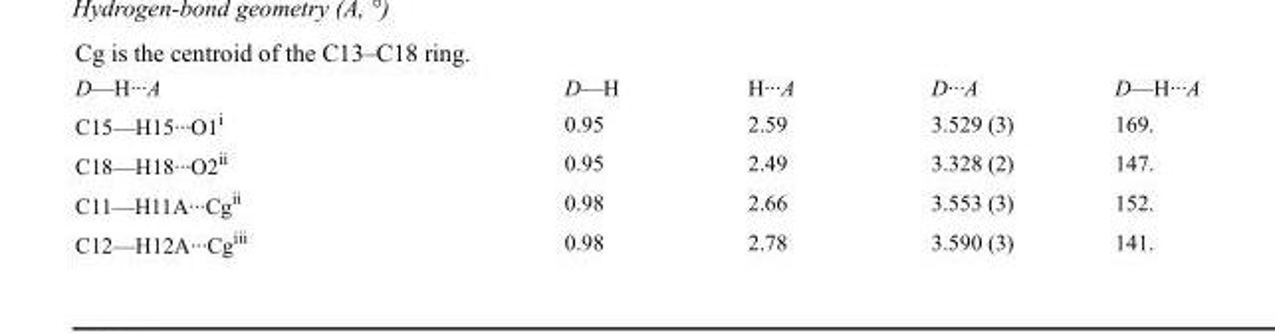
<table><tbody><tr><td>D—H···A</td><td>D—H</td><td>H···A</td><td>D···A</td><td>D—H···A</td></tr><tr><td>C15—H15···O1<sup>i</sup></td><td>0.95</td><td>2.59</td><td>3.529 (3)</td><td>169.</td></tr><tr><td>C18—H18···O2<sup>ii</sup></td><td>0.95</td><td>2.49</td><td>3.328 (2)</td><td>147.</td></tr><tr><td>C11—H11A···Cg<sup>ii</sup></td><td>0.98</td><td>2.66</td><td>3.553 (3)</td><td>152.</td></tr><tr><td>C12—H12A···Cg<sup>iii</sup></td><td>0.98</td><td>2.78</td><td>3.590 (3)</td><td>141.</td></tr></tbody></table>